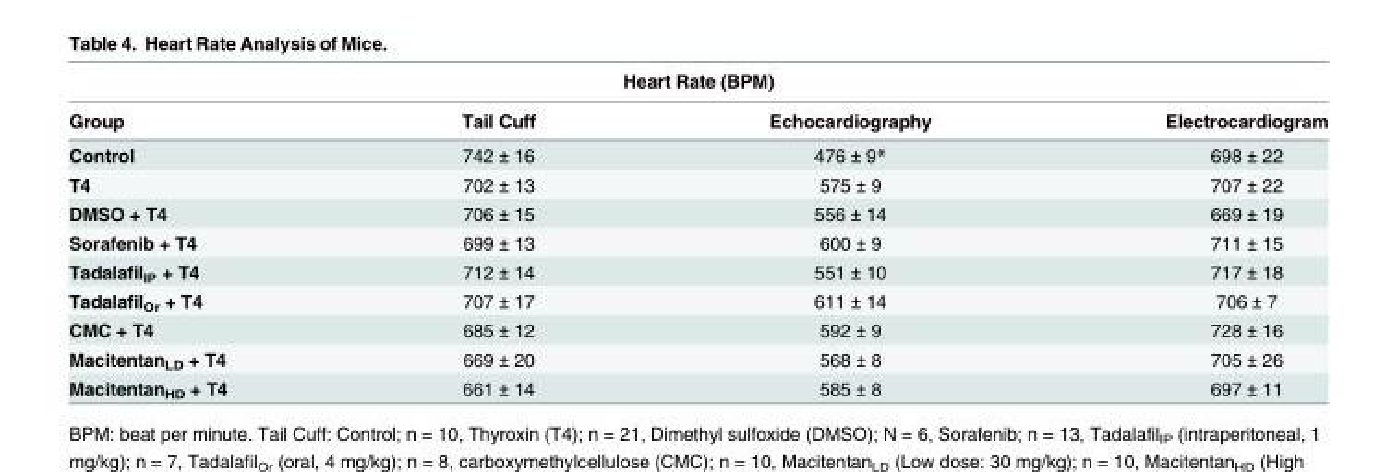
<table><thead><tr><td colspan="4">Heart Rate (BPM)</td></tr><tr><td>Group</td><td>Tail Cuff</td><td>Echocardiography</td><td>Electrocardiogram</td></tr></thead><tbody><tr><td>Control</td><td>742 ± 16</td><td>476 ± 9*</td><td>698 ± 22</td></tr><tr><td>T4</td><td>702 ± 13</td><td>575 ± 9</td><td>707 ± 22</td></tr><tr><td>DMSO + T4</td><td>706 ± 15</td><td>556 ± 14</td><td>669 ± 19</td></tr><tr><td>Sorafenib + T4</td><td>699 ± 13</td><td>600 ± 9</td><td>711 ± 15</td></tr><tr><td>Tadalafil<sub>IP</sub> + T4</td><td>712 ± 14</td><td>551 ± 10</td><td>717 ± 18</td></tr><tr><td>Tadalafil<sub>Or</sub> + T4</td><td>707 ± 17</td><td>611 ± 14</td><td>706 ± 7</td></tr><tr><td>CMC + T4</td><td>685 ± 12</td><td>592 ± 9</td><td>728 ± 16</td></tr><tr><td>Macitentan<sub>LD</sub> + T4</td><td>669 ± 20</td><td>568 ± 8</td><td>705 ± 26</td></tr><tr><td>Macitentan<sub>HD</sub> + T4</td><td>661 ± 14</td><td>585 ± 8</td><td>697 ± 11</td></tr></tbody></table>